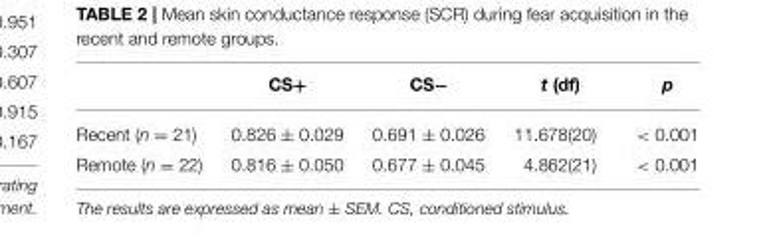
<table><thead><tr><td></td><td>CS+</td><td>CS−</td><td>t (df)</td><td>p</td></tr></thead><tbody><tr><td>Recent (n = 21)</td><td>0.826 ± 0.029</td><td>0.691 ± 0.026</td><td>11.678(20)</td><td>&lt; 0.001</td></tr><tr><td>Remote (n = 22)</td><td>0.816 ± 0.050</td><td>0.677 ± 0.045</td><td>4.862(21)</td><td>&lt; 0.001</td></tr></tbody></table>